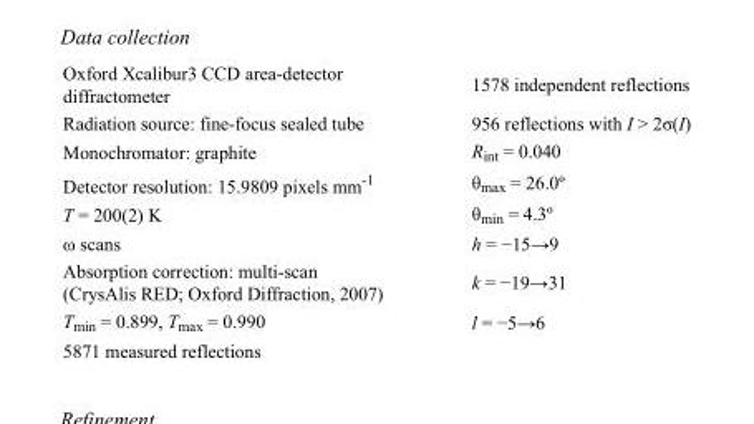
<table><tbody><tr><td>Oxford Xcalibur3 CCD area-detector diffractometer</td><td>1578 independent reflections</td></tr><tr><td>Radiation source: fine-focus sealed tube</td><td>956 reflections with I &gt; 2σ(I)</td></tr><tr><td>Monochromator: graphite</td><td>R<sub>int</sub> = 0.040</td></tr><tr><td>Detector resolution: 15.9809 pixels mm<sup>-1</sup></td><td>θ<sub>max</sub> = 26.0º</td></tr><tr><td>T = 200(2) K</td><td>θ<sub>min</sub> = 4.3º</td></tr><tr><td>ω scans</td><td>h = −15→9</td></tr><tr><td>Absorption correction: multi-scan (CrysAlis RED; Oxford Diffraction, 2007)</td><td>k = −19→31</td></tr><tr><td>T<sub>min</sub> = 0.899, T<sub>max</sub> = 0.990</td><td>l = −5→6</td></tr><tr><td>5871 measured reflections</td><td></td></tr></tbody></table>